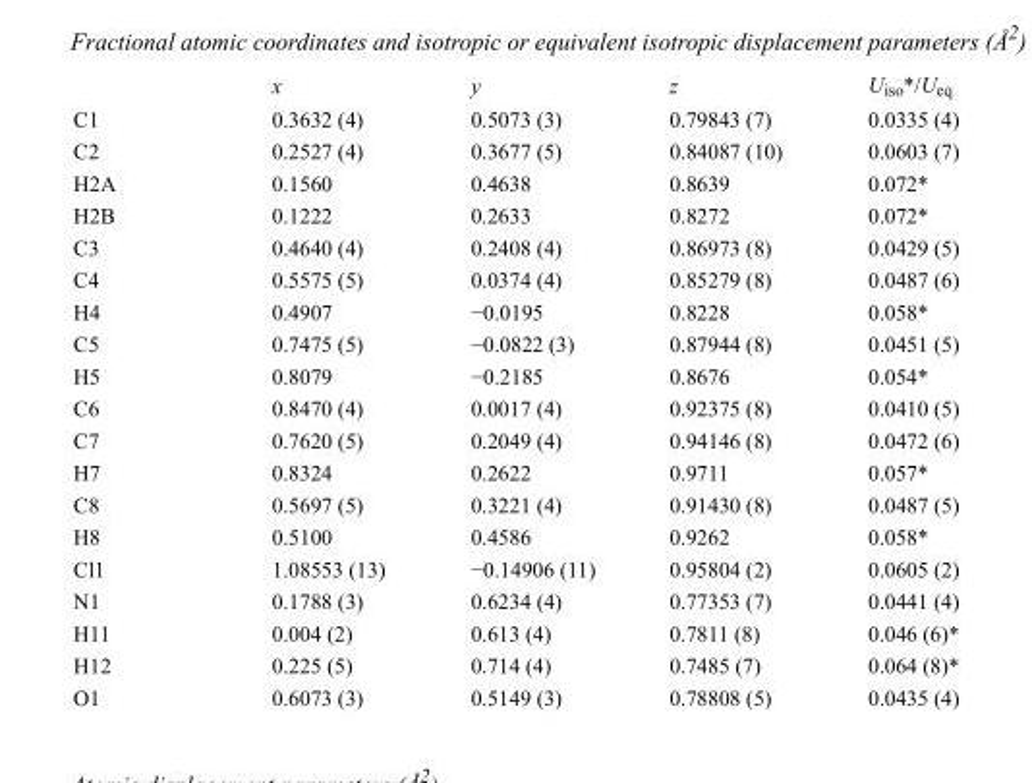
<table><thead><tr><td></td><td>x</td><td>y</td><td>z</td><td>U<sub>iso</sub>*/U<sub>eq</sub></td></tr></thead><tbody><tr><td>C1</td><td>0.3632 (4)</td><td>0.5073 (3)</td><td>0.79843 (7)</td><td>0.0335 (4)</td></tr><tr><td>C2</td><td>0.2527 (4)</td><td>0.3677 (5)</td><td>0.84087 (10)</td><td>0.0603 (7)</td></tr><tr><td>H2A</td><td>0.1560</td><td>0.4638</td><td>0.8639</td><td>0.072*</td></tr><tr><td>H2B</td><td>0.1222</td><td>0.2633</td><td>0.8272</td><td>0.072*</td></tr><tr><td>C3</td><td>0.4640 (4)</td><td>0.2408 (4)</td><td>0.86973 (8)</td><td>0.0429 (5)</td></tr><tr><td>C4</td><td>0.5575 (5)</td><td>0.0374 (4)</td><td>0.85279 (8)</td><td>0.0487 (6)</td></tr><tr><td>H4</td><td>0.4907</td><td>−0.0195</td><td>0.8228</td><td>0.058*</td></tr><tr><td>C5</td><td>0.7475 (5)</td><td>−0.0822 (3)</td><td>0.87944 (8)</td><td>0.0451 (5)</td></tr><tr><td>H5</td><td>0.8079</td><td>−0.2185</td><td>0.8676</td><td>0.054*</td></tr><tr><td>C6</td><td>0.8470 (4)</td><td>0.0017 (4)</td><td>0.92375 (8)</td><td>0.0410 (5)</td></tr><tr><td>C7</td><td>0.7620 (5)</td><td>0.2049 (4)</td><td>0.94146 (8)</td><td>0.0472 (6)</td></tr><tr><td>H7</td><td>0.8324</td><td>0.2622</td><td>0.9711</td><td>0.057*</td></tr><tr><td>C8</td><td>0.5697 (5)</td><td>0.3221 (4)</td><td>0.91430 (8)</td><td>0.0487 (5)</td></tr><tr><td>H8</td><td>0.5100</td><td>0.4586</td><td>0.9262</td><td>0.058*</td></tr><tr><td>Cl1</td><td>1.08553 (13)</td><td>−0.14906 (11)</td><td>0.95804 (2)</td><td>0.0605 (2)</td></tr><tr><td>N1</td><td>0.1788 (3)</td><td>0.6234 (4)</td><td>0.77353 (7)</td><td>0.0441 (4)</td></tr><tr><td>H11</td><td>0.004 (2)</td><td>0.613 (4)</td><td>0.7811 (8)</td><td>0.046 (6)*</td></tr><tr><td>H12</td><td>0.225 (5)</td><td>0.714 (4)</td><td>0.7485 (7)</td><td>0.064 (8)*</td></tr><tr><td>O1</td><td>0.6073 (3)</td><td>0.5149 (3)</td><td>0.78808 (5)</td><td>0.0435 (4)</td></tr></tbody></table>